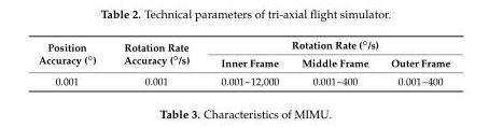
<table><thead><tr><td rowspan="2">Position Accuracy (◦)</td><td rowspan="2">Rotation Rate Accuracy (◦/s)</td><td colspan="3">Rotation Rate (◦/s)</td></tr><tr><td>Inner Frame</td><td>Middle Frame</td><td>Outer Frame</td></tr></thead><tbody><tr><td>0.001</td><td>0.001</td><td>0.001~12,000</td><td>0.001~400</td><td>0.001~400</td></tr></tbody></table>